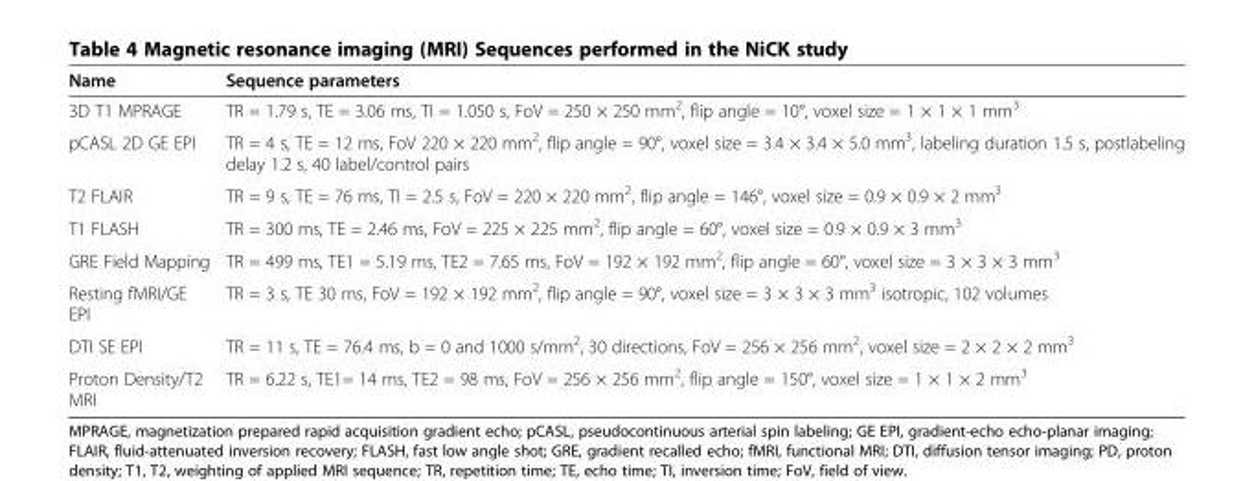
<table><thead><tr><td>Name</td><td>Sequence parameters</td></tr></thead><tbody><tr><td>3D T1 MPRAGE</td><td>TR = 1.79 s, TE = 3.06 ms, TI = 1.050 s, FoV = 250 × 250 mm<sup>2</sup>, flip angle = 10°, voxel size = 1 × 1 × 1 mm<sup>3</sup></td></tr><tr><td>pCASL 2D GE EPI</td><td>TR = 4 s, TE = 12 ms, FoV 220 × 220 mm<sup>2</sup>, flip angle = 90°, voxel size = 3.4 × 3.4 × 5.0 mm<sup>3</sup>, labeling duration 1.5 s, postlabeling delay 1.2 s, 40 label/control pairs</td></tr><tr><td>T2 FLAIR</td><td>TR = 9 s, TE = 76 ms, TI = 2.5 s, FoV = 220 × 220 mm<sup>2</sup>, flip angle = 146°, voxel size = 0.9 × 0.9 × 2 mm<sup>3</sup></td></tr><tr><td>T1 FLASH</td><td>TR = 300 ms, TE = 2.46 ms, FoV = 225 × 225 mm<sup>2</sup>, flip angle = 60°, voxel size = 0.9 × 0.9 × 3 mm<sup>3</sup></td></tr><tr><td>GRE Field Mapping</td><td>TR = 499 ms, TE1 = 5.19 ms, TE2 = 7.65 ms, FoV = 192 × 192 mm<sup>2</sup>, flip angle = 60°, voxel size = 3 × 3 × 3 mm<sup>3</sup></td></tr><tr><td>Resting fMRI/GE EPI</td><td>TR = 3 s, TE 30 ms, FoV = 192 × 192 mm<sup>2</sup>, flip angle = 90°, voxel size = 3 × 3 × 3 mm<sup>3</sup> isotropic, 102 volumes</td></tr><tr><td>DTI SE EPI</td><td>TR = 11 s, TE = 76.4 ms, b = 0 and 1000 s/mm<sup>2</sup>, 30 directions, FoV = 256 × 256 mm<sup>2</sup>, voxel size = 2 × 2 × 2 mm<sup>3</sup></td></tr><tr><td>Proton Density/T2 MRI</td><td>TR = 6.22 s, TE1= 14 ms, TE2 = 98 ms, FoV = 256 × 256 mm<sup>2</sup>, flip angle = 150°, voxel size = 1 × 1 × 2 mm<sup>3</sup></td></tr></tbody></table>